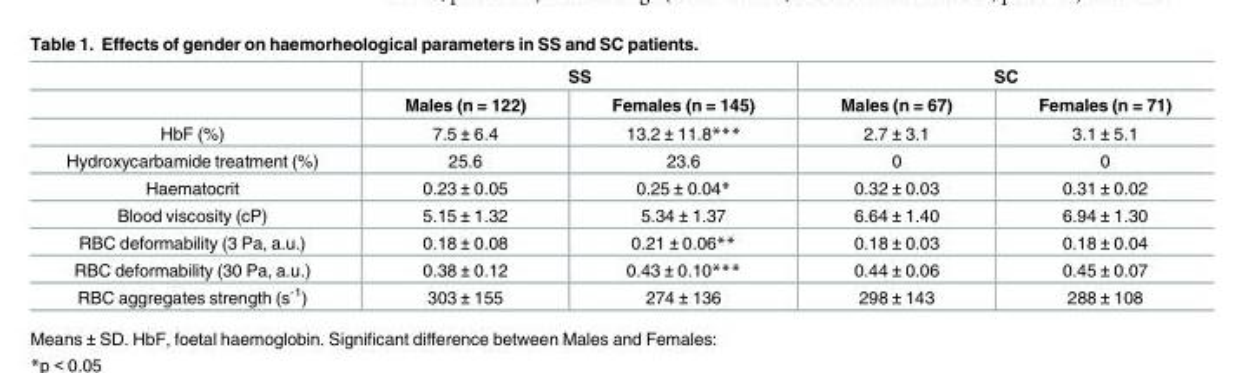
<table><thead><tr><td rowspan="2"></td><td colspan="2">SS</td><td colspan="2">SC</td></tr><tr><td>Males (n = 122)</td><td>Females (n = 145)</td><td>Males (n = 67)</td><td>Females (n = 71)</td></tr></thead><tbody><tr><td>HbF (%)</td><td>7.5 ± 6.4</td><td>13.2 ± 11.8***</td><td>2.7 ± 3.1</td><td>3.1 ± 5.1</td></tr><tr><td>Hydroxycarbamide treatment (%)</td><td>25.6</td><td>23.6</td><td>0</td><td>0</td></tr><tr><td>Haematocrit</td><td>0.23 ± 0.05</td><td>0.25 ± 0.04*</td><td>0.32 ± 0.03</td><td>0.31 ± 0.02</td></tr><tr><td>Blood viscosity (cP)</td><td>5.15 ± 1.32</td><td>5.34 ± 1.37</td><td>6.64 ± 1.40</td><td>6.94 ± 1.30</td></tr><tr><td>RBC deformability (3 Pa, a.u.)</td><td>0.18 ± 0.08</td><td>0.21 ± 0.06**</td><td>0.18 ± 0.03</td><td>0.18 ± 0.04</td></tr><tr><td>RBC deformability (30 Pa, a.u.)</td><td>0.38 ± 0.12</td><td>0.43 ± 0.10***</td><td>0.44 ± 0.06</td><td>0.45 ± 0.07</td></tr><tr><td>RBC aggregates strength (s<sup>-1</sup>)</td><td>303 ± 155</td><td>274 ± 136</td><td>298 ± 143</td><td>288 ± 108</td></tr></tbody></table>